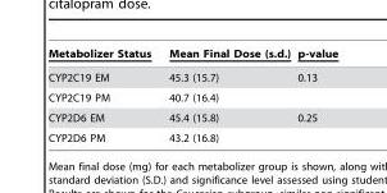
<table><thead><tr><td>Metabolizer Status</td><td>Mean Final Dose (s.d.)</td><td>p-value</td></tr></thead><tbody><tr><td>CYP2C19 EM</td><td>45.3 (15.7)</td><td>0.13</td></tr><tr><td>CYP2C19 PM</td><td>40.7 (16.4)</td><td></td></tr><tr><td>CYP2D6 EM</td><td>45.4 (15.8)</td><td>0.25</td></tr><tr><td>CYP2D6 PM</td><td>43.2 (16.8)</td><td></td></tr></tbody></table>